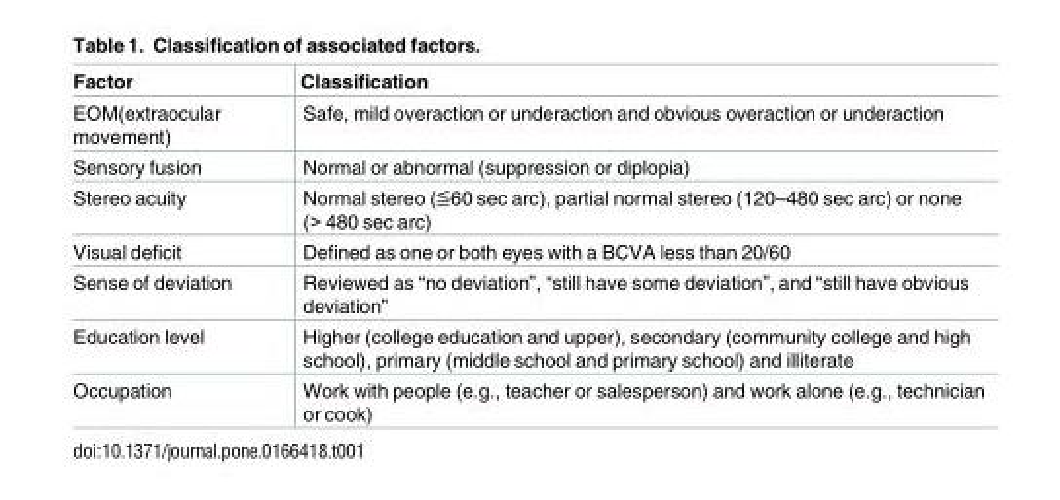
<table><thead><tr><td>Factor</td><td>Classification</td></tr></thead><tbody><tr><td>EOM(extraocular movement)</td><td>Safe, mild overaction or underaction and obvious overaction or underaction</td></tr><tr><td>Sensory fusion</td><td>Normal or abnormal (suppression or diplopia)</td></tr><tr><td>Stereo acuity</td><td>Normal stereo (≦60 sec arc), partial normal stereo (120–480 sec arc) or none (&gt; 480 sec arc)</td></tr><tr><td>Visual deficit</td><td>Defined as one or both eyes with a BCVA less than 20/60</td></tr><tr><td>Sense of deviation</td><td>Reviewed as “no deviation”, “still have some deviation”, and “still have obvious deviation”</td></tr><tr><td>Education level</td><td>Higher (college education and upper), secondary (community college and high school), primary (middle school and primary school) and illiterate</td></tr><tr><td>Occupation</td><td>Work with people (e.g., teacher or salesperson) and work alone (e.g., technician or cook)</td></tr></tbody></table>